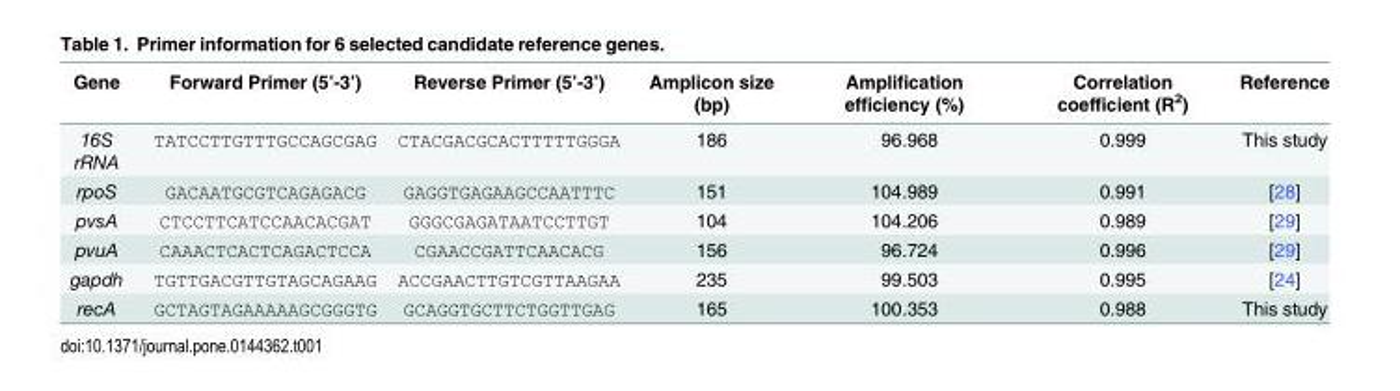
<table><thead><tr><td>Gene</td><td>Forward Primer (5’-3’)</td><td>Reverse Primer (5’-3’)</td><td>Amplicon size (bp)</td><td>Amplification efficiency (%)</td><td>Correlation coefficient (R<sup>2</sup>)</td><td>Reference</td></tr></thead><tbody><tr><td>16S rRNA</td><td>TATCCTTGTTTGCCAGCGAG</td><td>CTACGACGCACTTTTTGGGA</td><td>186</td><td>96.968</td><td>0.999</td><td>This study</td></tr><tr><td>rpoS</td><td>GACAATGCGTCAGAGACG</td><td>GAGGTGAGAAGCCAATTTC</td><td>151</td><td>104.989</td><td>0.991</td><td>[28]</td></tr><tr><td>pvsA</td><td>CTCCTTCATCCAACACGAT</td><td>GGGCGAGATAATCCTTGT</td><td>104</td><td>104.206</td><td>0.989</td><td>[29]</td></tr><tr><td>pvuA</td><td>CAAACTCACTCAGACTCCA</td><td>CGAACCGATTCAACACG</td><td>156</td><td>96.724</td><td>0.996</td><td>[29]</td></tr><tr><td>gapdh</td><td>TGTTGACGTTGTAGCAGAAG</td><td>ACCGAACTTGTCGTTAAGAA</td><td>235</td><td>99.503</td><td>0.995</td><td>[24]</td></tr><tr><td>recA</td><td>GCTAGTAGAAAAAGCGGGTG</td><td>GCAGGTGCTTCTGGTTGAG</td><td>165</td><td>100.353</td><td>0.988</td><td>This study</td></tr></tbody></table>